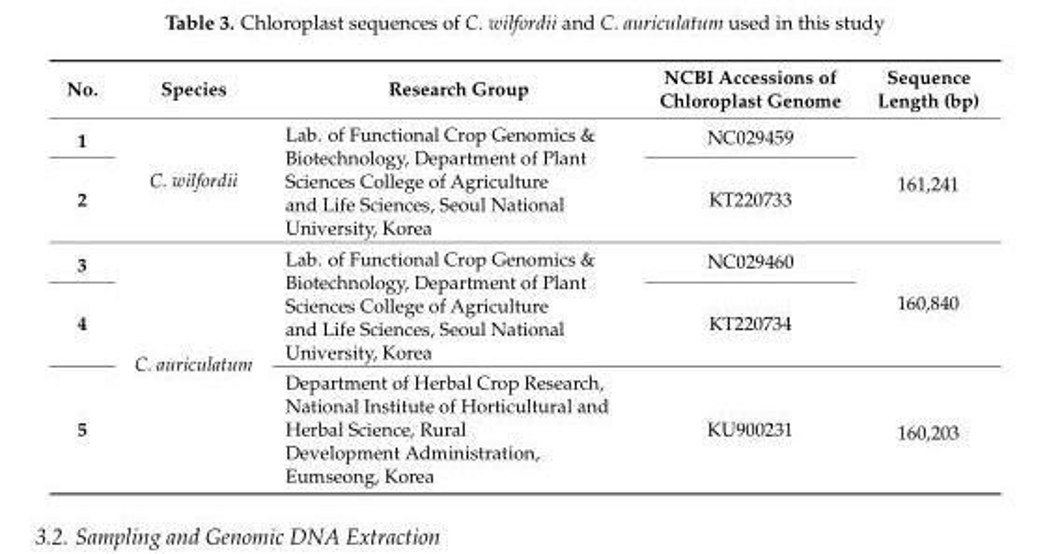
<table><thead><tr><td>No.</td><td>Species</td><td>Research Group</td><td>NCBI Accessions of Chloroplast Genome</td><td>Sequence Length (bp)</td></tr></thead><tbody><tr><td>1</td><td rowspan="2">C. wilfordii</td><td rowspan="2">Lab. of Functional Crop Genomics &amp; Biotechnology, Department of Plant Sciences College of Agriculture and Life Sciences, Seoul National University, Korea</td><td>NC029459</td><td rowspan="2">161,241</td></tr><tr><td>2</td><td>KT220733</td></tr><tr><td>3</td><td rowspan="3">C. auriculatum</td><td rowspan="2">Lab. of Functional Crop Genomics &amp; Biotechnology, Department of Plant Sciences College of Agriculture and Life Sciences, Seoul National University, Korea</td><td>NC029460</td><td rowspan="2">160,840</td></tr><tr><td>4</td><td>KT220734</td></tr><tr><td>5</td><td>Department of Herbal Crop Research, National Institute of Horticultural and Herbal Science, Rural Development Administration, Eumseong, Korea</td><td>KU900231</td><td>160,203</td></tr></tbody></table>